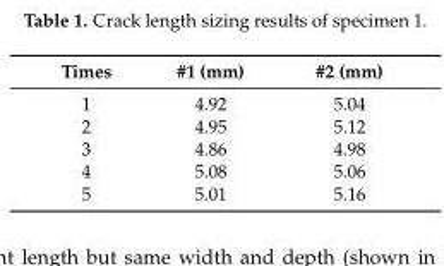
<table><thead><tr><td>Times</td><td>#1 (mm)</td><td>#2 (mm)</td></tr></thead><tbody><tr><td>1</td><td>4.92</td><td>5.04</td></tr><tr><td>2</td><td>4.95</td><td>5.12</td></tr><tr><td>3</td><td>4.86</td><td>4.98</td></tr><tr><td>4</td><td>5.08</td><td>5.06</td></tr><tr><td>5</td><td>5.01</td><td>5.16</td></tr></tbody></table>